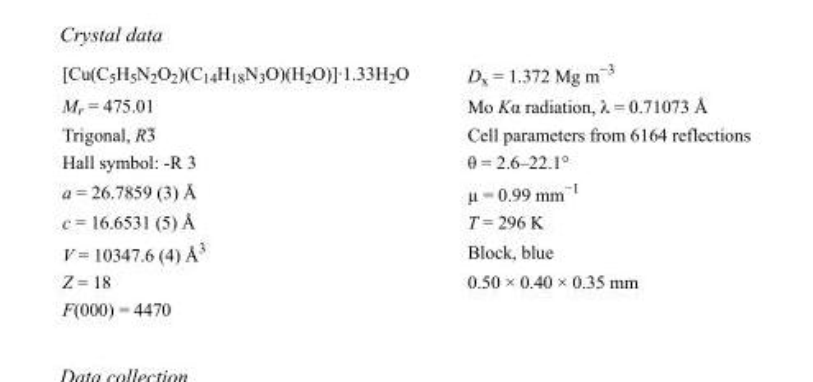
<table><tbody><tr><td>[Cu(C<sub>5</sub>H<sub>5</sub>N<sub>2</sub>O<sub>2</sub>)(C<sub>14</sub>H<sub>18</sub>N<sub>3</sub>O)(H<sub>2</sub>O)]·1.33H<sub>2</sub>O</td><td>D<sub>x</sub> = 1.372 Mg m<sup>−3</sup></td></tr><tr><td>M<sub>r</sub> = 475.01</td><td>Mo Kα radiation, λ = 0.71073 Å</td></tr><tr><td>Trigonal, R3</td><td>Cell parameters from 6164 reflections</td></tr><tr><td>Hall symbol: -R 3</td><td>θ = 2.6–22.1°</td></tr><tr><td>a = 26.7859 (3) Å</td><td>µ = 0.99 mm<sup>−1</sup></td></tr><tr><td>c = 16.6531 (5) Å</td><td>T = 296 K</td></tr><tr><td>V = 10347.6 (4) Å<sup>3</sup></td><td>Block, blue</td></tr><tr><td>Z = 18</td><td>0.50 × 0.40 × 0.35 mm</td></tr><tr><td>F(000) = 4470</td><td></td></tr></tbody></table>